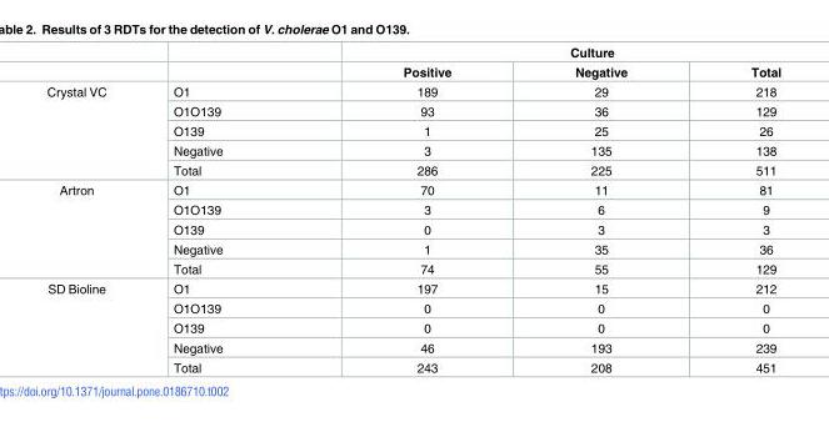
<table><thead><tr><td rowspan="2"></td><td rowspan="2"></td><td colspan="3">Culture</td></tr><tr><td>Positive</td><td>Negative</td><td>Total</td></tr></thead><tbody><tr><td rowspan="5">Crystal VC</td><td>O1</td><td>189</td><td>29</td><td>218</td></tr><tr><td>O1O139</td><td>93</td><td>36</td><td>129</td></tr><tr><td>O139</td><td>1</td><td>25</td><td>26</td></tr><tr><td>Negative</td><td>3</td><td>135</td><td>138</td></tr><tr><td>Total</td><td>286</td><td>225</td><td>511</td></tr><tr><td rowspan="5">Artron</td><td>O1</td><td>70</td><td>11</td><td>81</td></tr><tr><td>O1O139</td><td>3</td><td>6</td><td>9</td></tr><tr><td>O139</td><td>0</td><td>3</td><td>3</td></tr><tr><td>Negative</td><td>1</td><td>35</td><td>36</td></tr><tr><td>Total</td><td>74</td><td>55</td><td>129</td></tr><tr><td rowspan="5">SD Bioline</td><td>O1</td><td>197</td><td>15</td><td>212</td></tr><tr><td>O1O139</td><td>0</td><td>0</td><td>0</td></tr><tr><td>O139</td><td>0</td><td>0</td><td>0</td></tr><tr><td>Negative</td><td>46</td><td>193</td><td>239</td></tr><tr><td>Total</td><td>243</td><td>208</td><td>451</td></tr></tbody></table>